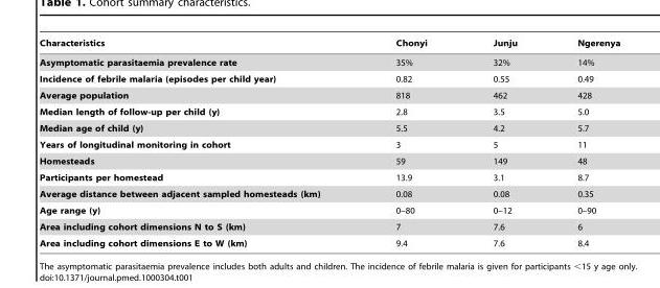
<table><thead><tr><td>Characteristics</td><td>Chonyi</td><td>Junju</td><td>Ngerenya</td></tr></thead><tbody><tr><td>Asymptomatic parasitaemia prevalence rate</td><td>35%</td><td>32%</td><td>14%</td></tr><tr><td>Incidence of febrile malaria (episodes per child year)</td><td>0.82</td><td>0.55</td><td>0.49</td></tr><tr><td>Average population</td><td>818</td><td>462</td><td>428</td></tr><tr><td>Median length of follow-up per child (y)</td><td>2.8</td><td>3.5</td><td>5.0</td></tr><tr><td>Median age of child (y)</td><td>5.5</td><td>4.2</td><td>5.7</td></tr><tr><td>Years of longitudinal monitoring in cohort</td><td>3</td><td>5</td><td>11</td></tr><tr><td>Homesteads</td><td>59</td><td>149</td><td>48</td></tr><tr><td>Participants per homestead</td><td>13.9</td><td>3.1</td><td>8.7</td></tr><tr><td>Average distance between adjacent sampled homesteads (km)</td><td>0.08</td><td>0.08</td><td>0.35</td></tr><tr><td>Age range (y)</td><td>0–80</td><td>0–12</td><td>0–90</td></tr><tr><td>Area including cohort dimensions N to S (km)</td><td>7</td><td>7.6</td><td>6</td></tr><tr><td>Area including cohort dimensions E to W (km)</td><td>9.4</td><td>7.6</td><td>8.4</td></tr></tbody></table>